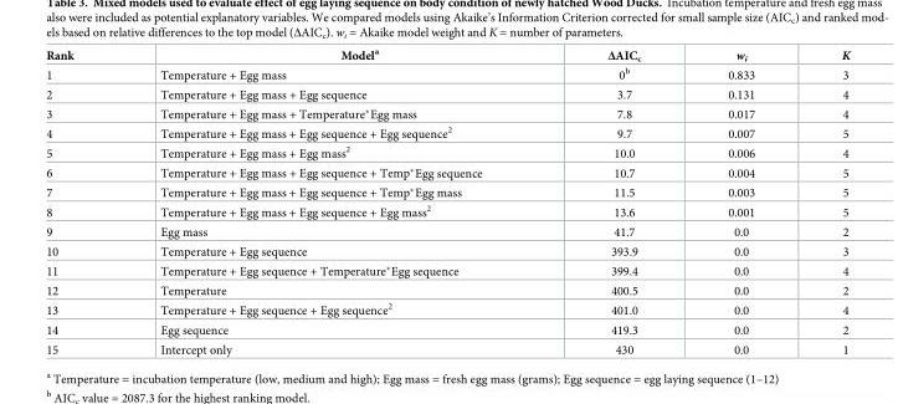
<table><thead><tr><td>Rank</td><td>Model<sup>a</sup></td><td>ΔAIC<sub>c</sub></td><td>w<sub>i</sub></td><td>K</td></tr></thead><tbody><tr><td>1</td><td>Temperature + Egg mass</td><td>0<sup>b</sup></td><td>0.833</td><td>3</td></tr><tr><td>2</td><td>Temperature + Egg mass + Egg sequence</td><td>3.7</td><td>0.131</td><td>4</td></tr><tr><td>3</td><td>Temperature + Egg mass + Temperature*Egg mass</td><td>7.8</td><td>0.017</td><td>4</td></tr><tr><td>4</td><td>Temperature + Egg mass + Egg sequence + Egg sequence<sup>2</sup></td><td>9.7</td><td>0.007</td><td>5</td></tr><tr><td>5</td><td>Temperature + Egg mass + Egg mass<sup>2</sup></td><td>10.0</td><td>0.006</td><td>4</td></tr><tr><td>6</td><td>Temperature + Egg mass + Egg sequence + Temp*Egg sequence</td><td>10.7</td><td>0.004</td><td>5</td></tr><tr><td>7</td><td>Temperature + Egg mass + Egg sequence + Temp*Egg mass</td><td>11.5</td><td>0.003</td><td>5</td></tr><tr><td>8</td><td>Temperature + Egg mass + Egg sequence + Egg mass<sup>2</sup></td><td>13.6</td><td>0.001</td><td>5</td></tr><tr><td>9</td><td>Egg mass</td><td>41.7</td><td>0.0</td><td>2</td></tr><tr><td>10</td><td>Temperature + Egg sequence</td><td>393.9</td><td>0.0</td><td>3</td></tr><tr><td>11</td><td>Temperature + Egg sequence + Temperature*Egg sequence</td><td>399.4</td><td>0.0</td><td>4</td></tr><tr><td>12</td><td>Temperature</td><td>400.5</td><td>0.0</td><td>2</td></tr><tr><td>13</td><td>Temperature + Egg sequence + Egg sequence<sup>2</sup></td><td>401.0</td><td>0.0</td><td>4</td></tr><tr><td>14</td><td>Egg sequence</td><td>419.3</td><td>0.0</td><td>2</td></tr><tr><td>15</td><td>Intercept only</td><td>430</td><td>0.0</td><td>1</td></tr></tbody></table>